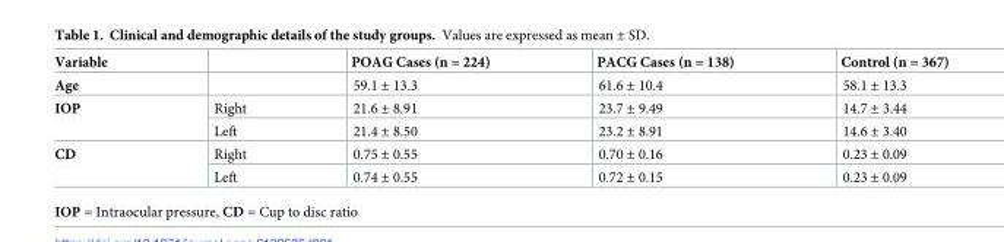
<table><thead><tr><td>Variable</td><td></td><td>POAG Cases (n = 224)</td><td>PACG Cases (n = 138)</td><td>Control (n = 367)</td></tr></thead><tbody><tr><td>Age</td><td></td><td>59.1 ± 13.3</td><td>61.6 ± 10.4</td><td>58.1 ± 13.3</td></tr><tr><td rowspan="2">IOP</td><td>Right</td><td>21.6 ± 8.91</td><td>23.7 ± 9.49</td><td>14.7 ± 3.44</td></tr><tr><td>Left</td><td>21.4 ± 8.50</td><td>23.2 ± 8.91</td><td>14.6 ± 3.40</td></tr><tr><td rowspan="2">CD</td><td>Right</td><td>0.75 ± 0.55</td><td>0.70 ± 0.16</td><td>0.23 ± 0.09</td></tr><tr><td>Left</td><td>0.74 ± 0.55</td><td>0.72 ± 0.15</td><td>0.23 ± 0.09</td></tr></tbody></table>